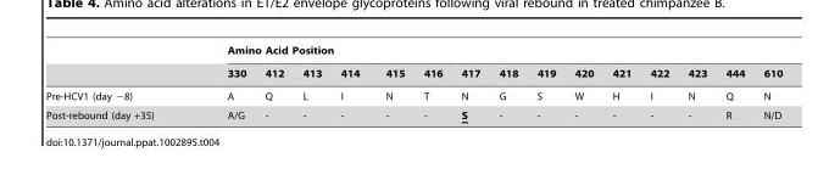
<table><thead><tr><td rowspan="2"></td><td colspan="15">Amino Acid Position</td></tr><tr><td>330</td><td>412</td><td>413</td><td>414</td><td>415</td><td>416</td><td>417</td><td>418</td><td>419</td><td>420</td><td>421</td><td>422</td><td>423</td><td>444</td><td>610</td></tr></thead><tbody><tr><td>Pre-HCV1 (day −8)</td><td>A</td><td>Q</td><td>L</td><td>I</td><td>N</td><td>T</td><td>N</td><td>G</td><td>S</td><td>W</td><td>H</td><td>I</td><td>N</td><td>Q</td><td>N</td></tr><tr><td>Post-rebound (day +35)</td><td>A/G</td><td>-</td><td>-</td><td>-</td><td>-</td><td>-</td><td>S</td><td>-</td><td>-</td><td>-</td><td>-</td><td>-</td><td>-</td><td>R</td><td>N/D</td></tr></tbody></table>